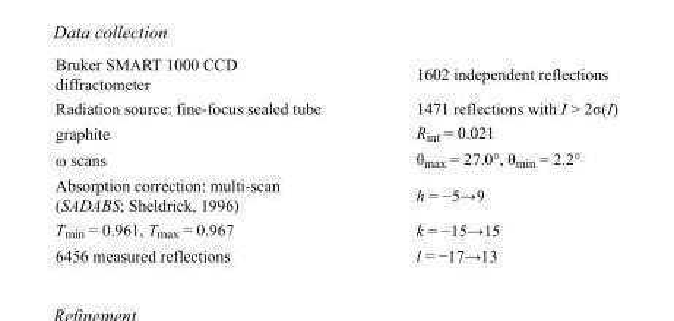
<table><tbody><tr><td>Bruker SMART 1000 CCD diffractometer</td><td>1602 independent reflections</td></tr><tr><td>Radiation source: fine-focus sealed tube</td><td>1471 reflections with I &gt; 2σ(I)</td></tr><tr><td>graphite</td><td>R<sub>int</sub> = 0.021</td></tr><tr><td>ω scans</td><td>θ<sub>max</sub> = 27.0°, θ<sub>min</sub> = 2.2°</td></tr><tr><td>Absorption correction: multi-scan (SADABS; Sheldrick, 1996)</td><td>h = −5→9</td></tr><tr><td>T<sub>min</sub> = 0.961, T<sub>max</sub> = 0.967</td><td>k = −15→15</td></tr><tr><td>6456 measured reflections</td><td>l = −17→13</td></tr></tbody></table>